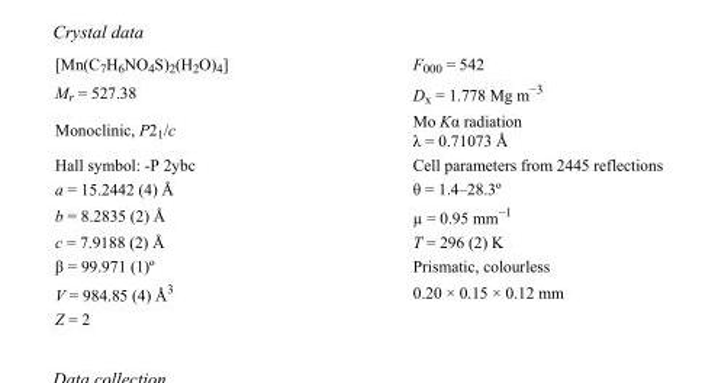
<table><tbody><tr><td>[Mn(C<sub>7</sub>H<sub>6</sub>NO<sub>4</sub>S)<sub>2</sub>(H<sub>2</sub>O)<sub>4</sub>]</td><td>F000 = 542</td></tr><tr><td>M<sub>r</sub> = 527.38</td><td>D<sub>x</sub> = 1.778 Mg m<sup>−3</sup></td></tr><tr><td>Monoclinic, P2<sub>1</sub>/c</td><td>Mo Kα radiation λ = 0.71073 Å</td></tr><tr><td>Hall symbol: -P 2ybc</td><td>Cell parameters from 2445 reflections</td></tr><tr><td>a = 15.2442 (4) Å</td><td>θ = 1.4–28.3º</td></tr><tr><td>b = 8.2835 (2) Å</td><td>µ = 0.95 mm<sup>−1</sup></td></tr><tr><td>c = 7.9188 (2) Å</td><td>T = 296 (2) K</td></tr><tr><td>β = 99.971 (1)º</td><td>Prismatic, colourless</td></tr><tr><td>V = 984.85 (4) Å<sup>3</sup></td><td>0.20 × 0.15 × 0.12 mm</td></tr><tr><td>Z = 2</td><td></td></tr></tbody></table>